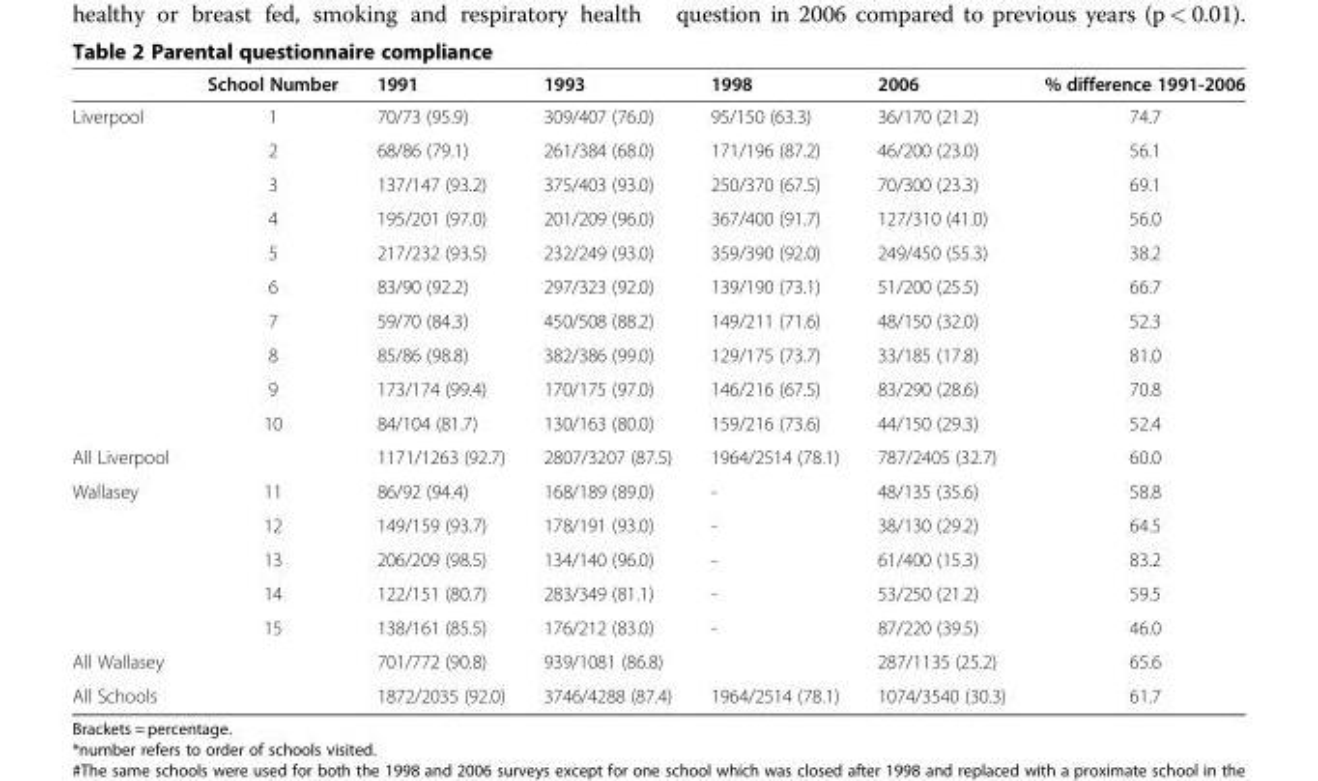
<table><thead><tr><td></td><td>School Number</td><td>1991</td><td>1993</td><td>1998</td><td>2006</td><td>% difference 1991-2006</td></tr></thead><tbody><tr><td rowspan="10">Liverpool</td><td>1</td><td>70/73 (95.9)</td><td>309/407 (76.0)</td><td>95/150 (63.3)</td><td>36/170 (21.2)</td><td>74.7</td></tr><tr><td>2</td><td>68/86 (79.1)</td><td>261/384 (68.0)</td><td>171/196 (87.2)</td><td>46/200 (23.0)</td><td>56.1</td></tr><tr><td>3</td><td>137/147 (93.2)</td><td>375/403 (93.0)</td><td>250/370 (67.5)</td><td>70/300 (23.3)</td><td>69.1</td></tr><tr><td>4</td><td>195/201 (97.0)</td><td>201/209 (96.0)</td><td>367/400 (91.7)</td><td>127/310 (41.0)</td><td>56.0</td></tr><tr><td>5</td><td>217/232 (93.5)</td><td>232/249 (93.0)</td><td>359/390 (92.0)</td><td>249/450 (55.3)</td><td>38.2</td></tr><tr><td>6</td><td>83/90 (92.2)</td><td>297/323 (92.0)</td><td>139/190 (73.1)</td><td>51/200 (25.5)</td><td>66.7</td></tr><tr><td>7</td><td>59/70 (84.3)</td><td>450/508 (88.2)</td><td>149/211 (71.6)</td><td>48/150 (32.0)</td><td>52.3</td></tr><tr><td>8</td><td>85/86 (98.8)</td><td>382/386 (99.0)</td><td>129/175 (73.7)</td><td>33/185 (17.8)</td><td>81.0</td></tr><tr><td>9</td><td>173/174 (99.4)</td><td>170/175 (97.0)</td><td>146/216 (67.5)</td><td>83/290 (28.6)</td><td>70.8</td></tr><tr><td>10</td><td>84/104 (81.7)</td><td>130/163 (80.0)</td><td>159/216 (73.6)</td><td>44/150 (29.3)</td><td>52.4</td></tr><tr><td>All Liverpool</td><td></td><td>1171/1263 (92.7)</td><td>2807/3207 (87.5)</td><td>1964/2514 (78.1)</td><td>787/2405 (32.7)</td><td>60.0</td></tr><tr><td rowspan="5">Wallasey</td><td>11</td><td>86/92 (94.4)</td><td>168/189 (89.0)</td><td>-</td><td>48/135 (35.6)</td><td>58.8</td></tr><tr><td>12</td><td>149/159 (93.7)</td><td>178/191 (93.0)</td><td>-</td><td>38/130 (29.2)</td><td>64.5</td></tr><tr><td>13</td><td>206/209 (98.5)</td><td>134/140 (96.0)</td><td>-</td><td>61/400 (15.3)</td><td>83.2</td></tr><tr><td>14</td><td>122/151 (80.7)</td><td>283/349 (81.1)</td><td>-</td><td>53/250 (21.2)</td><td>59.5</td></tr><tr><td>15</td><td>138/161 (85.5)</td><td>176/212 (83.0)</td><td>-</td><td>87/220 (39.5)</td><td>46.0</td></tr><tr><td>All Wallasey</td><td></td><td>701/772 (90.8)</td><td>939/1081 (86.8)</td><td></td><td>287/1135 (25.2)</td><td>65.6</td></tr><tr><td>All Schools</td><td></td><td>1872/2035 (92.0)</td><td>3746/4288 (87.4)</td><td>1964/2514 (78.1)</td><td>1074/3540 (30.3)</td><td>61.7</td></tr></tbody></table>